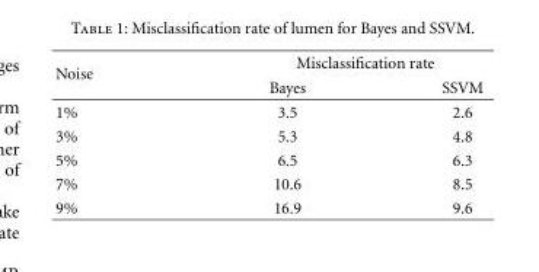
<table><thead><tr><td rowspan="2">Noise</td><td colspan="2">Misclassification rate</td></tr><tr><td>Bayes</td><td>SSVM</td></tr></thead><tbody><tr><td>1%</td><td>3.5</td><td>2.6</td></tr><tr><td>3%</td><td>5.3</td><td>4.8</td></tr><tr><td>5%</td><td>6.5</td><td>6.3</td></tr><tr><td>7%</td><td>10.6</td><td>8.5</td></tr><tr><td>9%</td><td>16.9</td><td>9.6</td></tr></tbody></table>